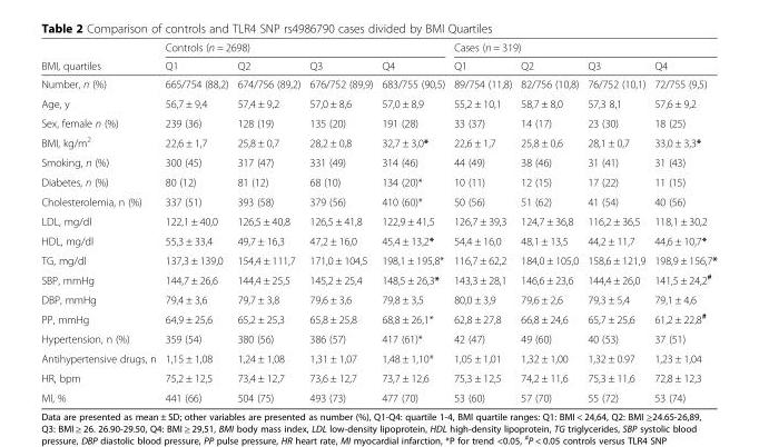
<table><thead><tr><td rowspan="2">BMI, quartiles</td><td colspan="4">Controls (n = 2698)</td><td colspan="4">Cases (n = 319)</td></tr><tr><td>Q1</td><td>Q2</td><td>Q3</td><td>Q4</td><td>Q1</td><td>Q2</td><td>Q3</td><td>Q4</td></tr></thead><tbody><tr><td>Number, n (%)</td><td>665/754 (88,2)</td><td>674/756 (89,2)</td><td>676/752 (89,9)</td><td>683/755 (90,5)</td><td>89/754 (11,8)</td><td>82/756 (10,8)</td><td>76/752 (10,1)</td><td>72/755 (9,5)</td></tr><tr><td>Age, y</td><td>56,7 ± 9,4</td><td>57,4 ± 9,2</td><td>57,0 ± 8,6</td><td>57,0 ± 8,9</td><td>55,2 ± 10,1</td><td>58,7 ± 8,0</td><td>57,3 8,1</td><td>57,6 ± 9,2</td></tr><tr><td>Sex, female n (%)</td><td>239 (36)</td><td>128 (19)</td><td>135 (20)</td><td>191 (28)</td><td>33 (37)</td><td>14 (17)</td><td>23 (30)</td><td>18 (25)</td></tr><tr><td>BMI, kg/m<sup>2</sup></td><td>22,6 ± 1,7</td><td>25,8 ± 0,7</td><td>28,2 ± 0,8</td><td>32,7 ± 3,0*</td><td>22,6 ± 1,7</td><td>25,8 ± 0,6</td><td>28,1 ± 0,7</td><td>33,0 ± 3,3*</td></tr><tr><td>Smoking, n (%)</td><td>300 (45)</td><td>317 (47)</td><td>331 (49)</td><td>314 (46)</td><td>44 (49)</td><td>38 (46)</td><td>31 (41)</td><td>31 (43)</td></tr><tr><td>Diabetes, n (%)</td><td>80 (12)</td><td>81 (12)</td><td>68 (10)</td><td>134 (20)*</td><td>10 (11)</td><td>12 (15)</td><td>17 (22)</td><td>11 (15)</td></tr><tr><td>Cholesterolemia, n (%)</td><td>337 (51)</td><td>393 (58)</td><td>379 (56)</td><td>410 (60)*</td><td>50 (56)</td><td>51 (62)</td><td>41 (54)</td><td>40 (56)</td></tr><tr><td>LDL, mg/dl</td><td>122,1 ± 40,0</td><td>126,5 ± 40,8</td><td>126,5 ± 41,8</td><td>122,9 ± 41,5</td><td>126,7 ± 39,3</td><td>124,7 ± 36,8</td><td>116,2 ± 36,5</td><td>118,1 ± 30,2</td></tr><tr><td>HDL, mg/dl</td><td>55,3 ± 33,4</td><td>49,7 ± 16,3</td><td>47,2 ± 16,0</td><td>45,4 ± 13,2*</td><td>54,4 ± 16,0</td><td>48,1 ± 13,5</td><td>44,2 ± 11,7</td><td>44,6 ± 10,7*</td></tr><tr><td>TG, mg/dl</td><td>137,3 ± 139,0</td><td>154,4 ± 111,7</td><td>171,0 ± 104,5</td><td>198,1 ± 195,8*</td><td>116,7 ± 62,2</td><td>184,0 ± 105,0</td><td>158,6 ± 121,9</td><td>198,9 ± 156,7*</td></tr><tr><td>SBP, mmHg</td><td>144,7 ± 26,6</td><td>144,4 ± 25,5</td><td>145,2 ± 25,4</td><td>148,5 ± 26,3*</td><td>143,3 ± 28,1</td><td>146,6 ± 23,6</td><td>144,4 ± 26,0</td><td>141,5 ± 24,2<sup>#</sup></td></tr><tr><td>DBP, mmHg</td><td>79,4 ± 3,6</td><td>79,7 ± 3,8</td><td>79,6 ± 3,6</td><td>79,8 ± 3,5</td><td>80,0 ± 3,9</td><td>79,6 ± 2,6</td><td>79,3 ± 5,4</td><td>79,1 ± 4,6</td></tr><tr><td>PP, mmHg</td><td>64,9 ± 25,6</td><td>65,2 ± 25,3</td><td>65,8 ± 25,8</td><td>68,8 ± 26,1*</td><td>62,8 ± 27,8</td><td>66,8 ± 24,6</td><td>65,7 ± 25,6</td><td>61,2 ± 22,8<sup>#</sup></td></tr><tr><td>Hypertension, n (%)</td><td>359 (54)</td><td>380 (56)</td><td>386 (57)</td><td>417 (61)*</td><td>42 (47)</td><td>49 (60)</td><td>40 (53)</td><td>37 (51)</td></tr><tr><td>Antihypertensive drugs, n</td><td>1,15 ± 1,08</td><td>1,24 ± 1,08</td><td>1,31 ± 1,07</td><td>1,48 ± 1,10*</td><td>1,05 ± 1,01</td><td>1,32 ± 1,00</td><td>1,32 ± 0.97</td><td>1,23 ± 1,04</td></tr><tr><td>HR, bpm</td><td>75,2 ± 12,5</td><td>73,4 ± 12,7</td><td>73,6 ± 12,7</td><td>73,7 ± 12,6</td><td>75,3 ± 12,5</td><td>74,2 ± 11,6</td><td>75,3 ± 11,6</td><td>72,8 ± 12,3</td></tr><tr><td>MI, %</td><td>441 (66)</td><td>504 (75)</td><td>493 (73)</td><td>477 (70)</td><td>53 (60)</td><td>57 (70)</td><td>55 (72)</td><td>53 (74)</td></tr></tbody></table>